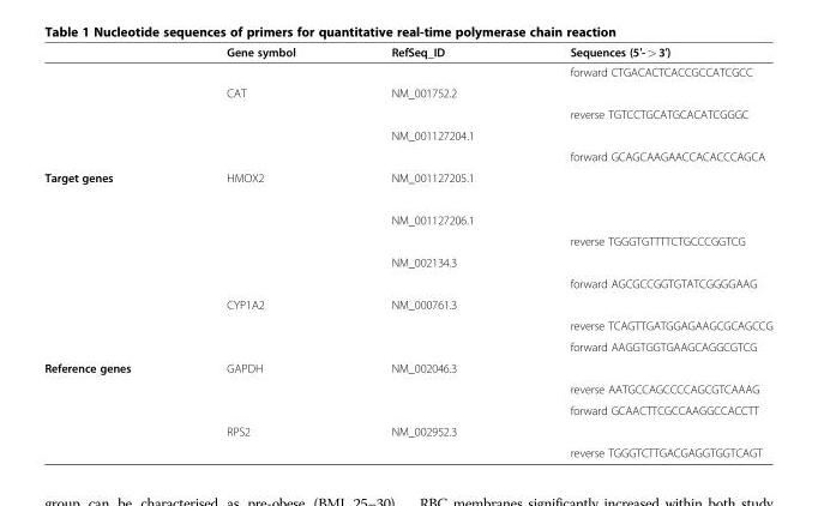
<table><thead><tr><td></td><td>Gene symbol</td><td>RefSeq_ID</td><td>Sequences (5′- &gt; 3′)</td></tr></thead><tbody><tr><td></td><td></td><td></td><td>forward CTGACACTCACCGCCATCGCC</td></tr><tr><td></td><td>CAT</td><td>NM_001752.2</td><td></td></tr><tr><td></td><td></td><td></td><td>reverse TGTCCTGCATGCACATCGGGC</td></tr><tr><td></td><td></td><td>NM_001127204.1</td><td></td></tr><tr><td></td><td></td><td></td><td>forward GCAGCAAGAACCACACCCAGCA</td></tr><tr><td rowspan="8">Target genes</td><td>HMOX2</td><td>NM_001127205.1</td><td></td></tr><tr><td></td><td>NM_001127206.1</td><td></td></tr><tr><td></td><td></td><td>reverse TGGGTGTTTTCTGCCCGGTCG</td></tr><tr><td></td><td>NM_002134.3</td><td></td></tr><tr><td></td><td></td><td>forward AGCGCCGGTGTATCGGGGAAG</td></tr><tr><td>CYP1A2</td><td>NM_000761.3</td><td></td></tr><tr><td></td><td></td><td>reverse TCAGTTGATGGAGAAGCGCAGCCG</td></tr><tr><td></td><td></td><td>forward AAGGTGGTGAAGCAGGCGTCG</td></tr><tr><td rowspan="5">Reference genes</td><td>GAPDH</td><td>NM_002046.3</td><td></td></tr><tr><td></td><td></td><td>reverse AATGCCAGCCCCAGCGTCAAAG</td></tr><tr><td></td><td></td><td>forward GCAACTTCGCCAAGGCCACCTT</td></tr><tr><td>RPS2</td><td>NM_002952.3</td><td></td></tr><tr><td></td><td></td><td>reverse TGGGTCTTGACGAGGTGGTCAGT</td></tr></tbody></table>